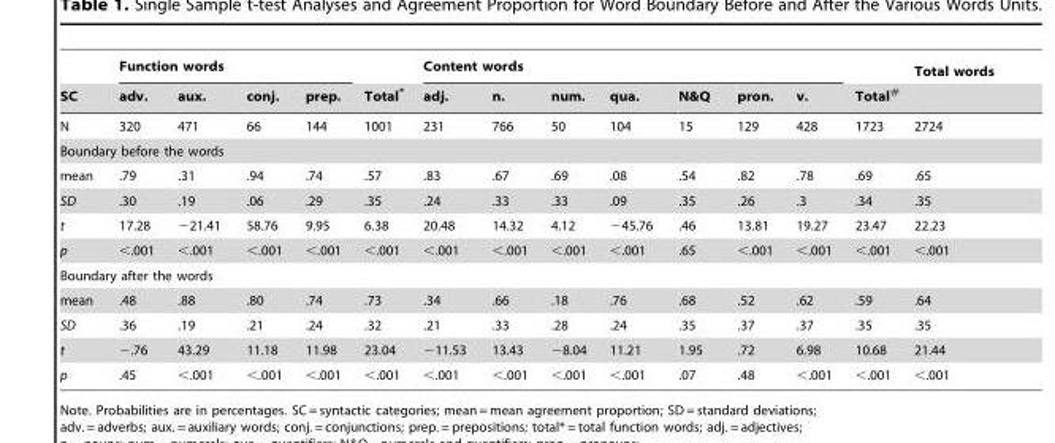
<table><thead><tr><td rowspan="2">SC</td><td colspan="4">Function words</td><td rowspan="2">Total*</td><td colspan="7">Content words</td><td rowspan="2">Total<sup>#</sup></td><td rowspan="2">Total words</td></tr><tr><td>adv.</td><td>aux.</td><td>conj.</td><td>prep.</td><td>adj.</td><td>n.</td><td>num.</td><td>qua.</td><td>N&amp;Q</td><td>pron.</td><td>v.</td></tr></thead><tbody><tr><td>N</td><td>320</td><td>471</td><td>66</td><td>144</td><td>1001</td><td>231</td><td>766</td><td>50</td><td>104</td><td>15</td><td>129</td><td>428</td><td>1723</td><td>2724</td></tr><tr><td colspan="15">Boundary before the words</td></tr><tr><td>mean</td><td>.79</td><td>.31</td><td>.94</td><td>.74</td><td>.57</td><td>.83</td><td>.67</td><td>.69</td><td>.08</td><td>.54</td><td>.82</td><td>.78</td><td>.69</td><td>.65</td></tr><tr><td>SD</td><td>.30</td><td>.19</td><td>.06</td><td>.29</td><td>.35</td><td>.24</td><td>.33</td><td>.33</td><td>.09</td><td>.35</td><td>.26</td><td>.3</td><td>.34</td><td>.35</td></tr><tr><td>t</td><td>17.28</td><td>−21.41</td><td>58.76</td><td>9.95</td><td>6.38</td><td>20.48</td><td>14.32</td><td>4.12</td><td>−45.76</td><td>.46</td><td>13.81</td><td>19.27</td><td>23.47</td><td>22.23</td></tr><tr><td>p</td><td>&lt;.001</td><td>&lt;.001</td><td>&lt;.001</td><td>&lt;.001</td><td>&lt;.001</td><td>&lt;.001</td><td>&lt;.001</td><td>&lt;.001</td><td>&lt;.001</td><td>.65</td><td>&lt;.001</td><td>&lt;.001</td><td>&lt;.001</td><td>&lt;.001</td></tr><tr><td colspan="15">Boundary after the words</td></tr><tr><td>mean</td><td>.48</td><td>.88</td><td>.80</td><td>.74</td><td>.73</td><td>.34</td><td>.66</td><td>.18</td><td>.76</td><td>.68</td><td>.52</td><td>.62</td><td>.59</td><td>.64</td></tr><tr><td>SD</td><td>.36</td><td>.19</td><td>.21</td><td>.24</td><td>.32</td><td>.21</td><td>.33</td><td>.28</td><td>.24</td><td>.35</td><td>.37</td><td>.37</td><td>.35</td><td>.35</td></tr><tr><td>t</td><td>−.76</td><td>43.29</td><td>11.18</td><td>11.98</td><td>23.04</td><td>−11.53</td><td>13.43</td><td>−8.04</td><td>11.21</td><td>1.95</td><td>.72</td><td>6.98</td><td>10.68</td><td>21.44</td></tr><tr><td>p</td><td>.45</td><td>&lt;.001</td><td>&lt;.001</td><td>&lt;.001</td><td>&lt;.001</td><td>&lt;.001</td><td>&lt;.001</td><td>&lt;.001</td><td>&lt;.001</td><td>.07</td><td>.48</td><td>&lt;.001</td><td>&lt;.001</td><td>&lt;.001</td></tr></tbody></table>